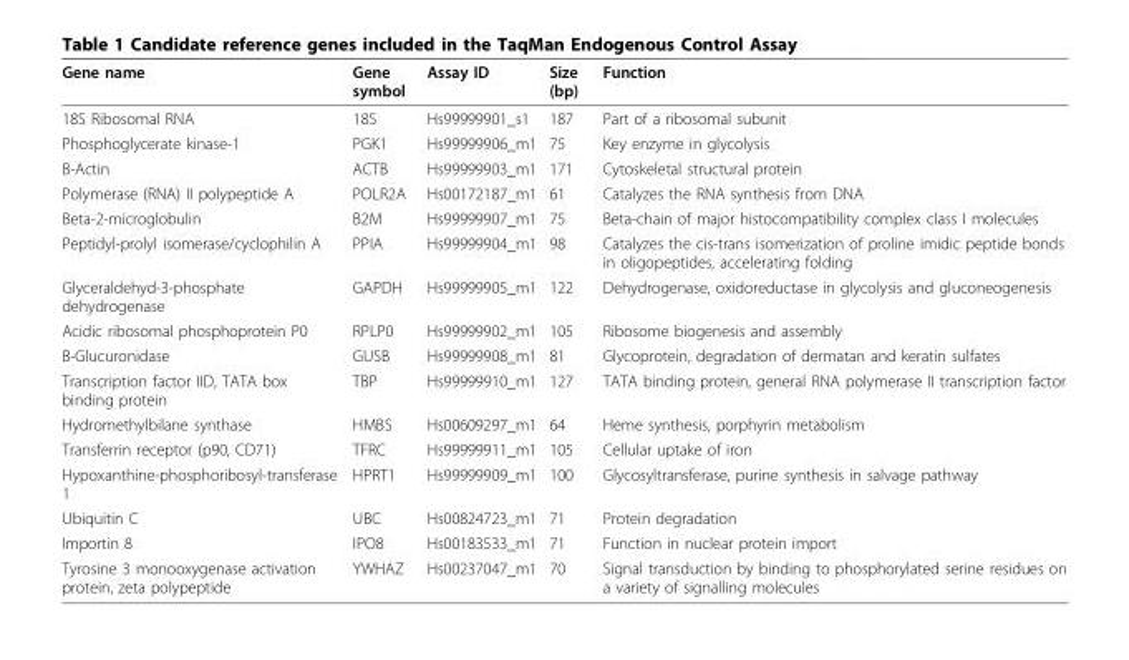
<table><thead><tr><td>Gene name</td><td>Gene symbol</td><td>Assay ID</td><td>Size (bp)</td><td>Function</td></tr></thead><tbody><tr><td>18S Ribosomal RNA</td><td>18S</td><td>Hs99999901_s1</td><td>187</td><td>Part of a ribosomal subunit</td></tr><tr><td>Phosphoglycerate kinase-1</td><td>PGK1</td><td>Hs99999906_m1</td><td>75</td><td>Key enzyme in glycolysis</td></tr><tr><td>Β-Actin</td><td>ACTB</td><td>Hs99999903_m1</td><td>171</td><td>Cytoskeletal structural protein</td></tr><tr><td>Polymerase (RNA) II polypeptide A</td><td>POLR2A</td><td>Hs00172187_m1</td><td>61</td><td>Catalyzes the RNA synthesis from DNA</td></tr><tr><td>Beta-2-microglobulin</td><td>B2M</td><td>Hs99999907_m1</td><td>75</td><td>Beta-chain of major histocompatibility complex class I molecules</td></tr><tr><td>Peptidyl-prolyl isomerase/cyclophilin A</td><td>PPIA</td><td>Hs99999904_m1</td><td>98</td><td>Catalyzes the cis-trans isomerization of proline imidic peptide bonds in oligopeptides, accelerating folding</td></tr><tr><td>Glyceraldehyd-3-phosphate dehydrogenase</td><td>GAPDH</td><td>Hs99999905_m1</td><td>122</td><td>Dehydrogenase, oxidoreductase in glycolysis and gluconeogenesis</td></tr><tr><td>Acidic ribosomal phosphoprotein P0</td><td>RPLP0</td><td>Hs99999902_m1</td><td>105</td><td>Ribosome biogenesis and assembly</td></tr><tr><td>Β-Glucuronidase</td><td>GUSB</td><td>Hs99999908_m1</td><td>81</td><td>Glycoprotein, degradation of dermatan and keratin sulfates</td></tr><tr><td>Transcription factor IID, TATA box binding protein</td><td>TBP</td><td>Hs99999910_m1</td><td>127</td><td>TATA binding protein, general RNA polymerase II transcription factor</td></tr><tr><td>Hydromethylbilane synthase</td><td>HMBS</td><td>Hs00609297_m1</td><td>64</td><td>Heme synthesis, porphyrin metabolism</td></tr><tr><td>Transferrin receptor (p90, CD71)</td><td>TFRC</td><td>Hs99999911_m1</td><td>105</td><td>Cellular uptake of iron</td></tr><tr><td>Hypoxanthine-phosphoribosyl-transferase 1</td><td>HPRT1</td><td>Hs99999909_m1</td><td>100</td><td>Glycosyltransferase, purine synthesis in salvage pathway</td></tr><tr><td>Ubiquitin C</td><td>UBC</td><td>Hs00824723_m1</td><td>71</td><td>Protein degradation</td></tr><tr><td>Importin 8</td><td>IPO8</td><td>Hs00183533_m1</td><td>71</td><td>Function in nuclear protein import</td></tr><tr><td>Tyrosine 3 monooxygenase activation protein, zeta polypeptide</td><td>YWHAZ</td><td>Hs00237047_m1</td><td>70</td><td>Signal transduction by binding to phosphorylated serine residues on a variety of signalling molecules</td></tr></tbody></table>